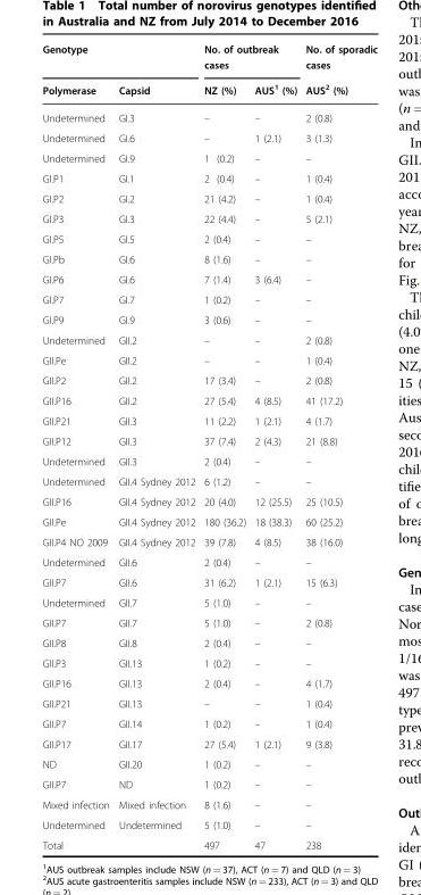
<table><thead><tr><td colspan="2">Genotype</td><td colspan="2">No. of outbreak cases</td><td rowspan="2">No. of sporadic cases AUS<sup>2</sup> (%)</td></tr><tr><td>Polymerase</td><td>Capsid</td><td>NZ (%)</td><td>AUS<sup>1</sup> (%)</td></tr></thead><tbody><tr><td>Undetermined</td><td>GI.3</td><td>–</td><td>–</td><td>2 (0.8)</td></tr><tr><td>Undetermined</td><td>GI.6</td><td>–</td><td>1 (2.1)</td><td>3 (1.3)</td></tr><tr><td>Undetermined</td><td>GI.9</td><td>1 (0.2)</td><td>–</td><td>–</td></tr><tr><td>GI.P1</td><td>GI.1</td><td>2 (0.4)</td><td>–</td><td>1 (0.4)</td></tr><tr><td>GI.P2</td><td>GI.2</td><td>21 (4.2)</td><td>–</td><td>1 (0.4)</td></tr><tr><td>GI.P3</td><td>GI.3</td><td>22 (4.4)</td><td>–</td><td>5 (2.1)</td></tr><tr><td>GI.P5</td><td>GI.5</td><td>2 (0.4)</td><td>–</td><td>–</td></tr><tr><td>GI.Pb</td><td>GI.6</td><td>8 (1.6)</td><td>–</td><td>–</td></tr><tr><td>GI.P6</td><td>GI.6</td><td>7 (1.4)</td><td>3 (6.4)</td><td>–</td></tr><tr><td>GI.P7</td><td>GI.7</td><td>1 (0.2)</td><td>–</td><td>–</td></tr><tr><td>GI.P9</td><td>GI.9</td><td>3 (0.6)</td><td>–</td><td>–</td></tr><tr><td>Undetermined</td><td>GII.2</td><td>–</td><td>–</td><td>2 (0.8)</td></tr><tr><td>GII.Pe</td><td>GII.2</td><td>–</td><td>–</td><td>1 (0.4)</td></tr><tr><td>GII.P2</td><td>GII.2</td><td>17 (3.4)</td><td>–</td><td>2 (0.8)</td></tr><tr><td>GII.P16</td><td>GII.2</td><td>27 (5.4)</td><td>4 (8.5)</td><td>41 (17.2)</td></tr><tr><td>GII.P21</td><td>GII.3</td><td>11 (2.2)</td><td>1 (2.1)</td><td>4 (1.7)</td></tr><tr><td>GII.P12</td><td>GII.3</td><td>37 (7.4)</td><td>2 (4.3)</td><td>21 (8.8)</td></tr><tr><td>Undetermined</td><td>GII.3</td><td>2 (0.4)</td><td>–</td><td>–</td></tr><tr><td>Undetermined</td><td>GII.4 Sydney 2012</td><td>6 (1.2)</td><td>–</td><td>–</td></tr><tr><td>GII.P16</td><td>GII.4 Sydney 2012</td><td>20 (4.0)</td><td>12 (25.5)</td><td>25 (10.5)</td></tr><tr><td>GII.Pe</td><td>GII.4 Sydney 2012</td><td>180 (36.2)</td><td>18 (38.3)</td><td>60 (25.2)</td></tr><tr><td>GII.P4 NO 2009</td><td>GII.4 Sydney 2012</td><td>39 (7.8)</td><td>4 (8.5)</td><td>38 (16.0)</td></tr><tr><td>Undetermined</td><td>GII.6</td><td>2 (0.4)</td><td>–</td><td>–</td></tr><tr><td>GII.P7</td><td>GII.6</td><td>31 (6.2)</td><td>1 (2.1)</td><td>15 (6.3)</td></tr><tr><td>Undetermined</td><td>GII.7</td><td>5 (1.0)</td><td>–</td><td>–</td></tr><tr><td>GII.P7</td><td>GII.7</td><td>5 (1.0)</td><td>–</td><td>2 (0.8)</td></tr><tr><td>GII.P8</td><td>GII.8</td><td>2 (0.4)</td><td>–</td><td>–</td></tr><tr><td>GII.P3</td><td>GII.13</td><td>1 (0.2)</td><td>–</td><td>–</td></tr><tr><td>GII.P16</td><td>GII.13</td><td>2 (0.4)</td><td>–</td><td>4 (1.7)</td></tr><tr><td>GII.P21</td><td>GII.13</td><td>–</td><td>–</td><td>1 (0.4)</td></tr><tr><td>GII.P7</td><td>GII.14</td><td>1 (0.2)</td><td>–</td><td>1 (0.4)</td></tr><tr><td>GII.P17</td><td>GII.17</td><td>27 (5.4)</td><td>1 (2.1)</td><td>9 (3.8)</td></tr><tr><td>ND</td><td>GII.20</td><td>1 (0.2)</td><td>–</td><td>–</td></tr><tr><td>GII.P7</td><td>ND</td><td>1 (0.2)</td><td>–</td><td>–</td></tr><tr><td>Mixed infection</td><td>Mixed infection</td><td>8 (1.6)</td><td>–</td><td>–</td></tr><tr><td>Undetermined</td><td>Undetermined</td><td>5 (1.0)</td><td>–</td><td>–</td></tr><tr><td>Total</td><td></td><td>497</td><td>47</td><td>238</td></tr></tbody></table>